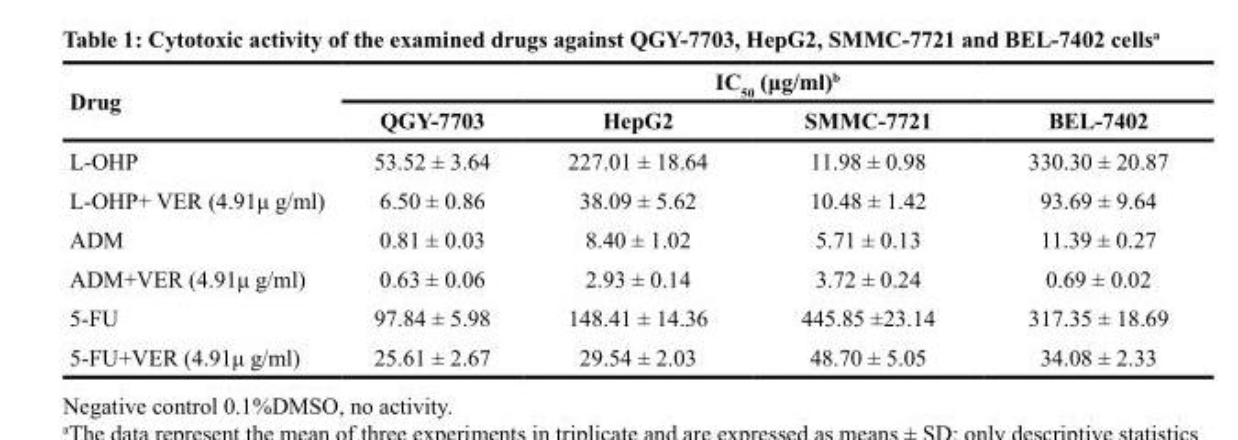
<table><thead><tr><td rowspan="2">Drug</td><td colspan="4">IC<sub>50</sub> (μg/ml)<sup>b</sup></td></tr><tr><td>QGY-7703</td><td>HepG2</td><td>SMMC-7721</td><td>BEL-7402</td></tr></thead><tbody><tr><td>L-OHP</td><td>53.52 ± 3.64</td><td>227.01 ± 18.64</td><td>11.98 ± 0.98</td><td>330.30 ± 20.87</td></tr><tr><td>L-OHP+ VER (4.91μ g/ml)</td><td>6.50 ± 0.86</td><td>38.09 ± 5.62</td><td>10.48 ± 1.42</td><td>93.69 ± 9.64</td></tr><tr><td>ADM</td><td>0.81 ± 0.03</td><td>8.40 ± 1.02</td><td>5.71 ± 0.13</td><td>11.39 ± 0.27</td></tr><tr><td>ADM+VER (4.91μ g/ml)</td><td>0.63 ± 0.06</td><td>2.93 ± 0.14</td><td>3.72 ± 0.24</td><td>0.69 ± 0.02</td></tr><tr><td>5-FU</td><td>97.84 ± 5.98</td><td>148.41 ± 14.36</td><td>445.85 ±23.14</td><td>317.35 ± 18.69</td></tr><tr><td>5-FU+VER (4.91μ g/ml)</td><td>25.61 ± 2.67</td><td>29.54 ± 2.03</td><td>48.70 ± 5.05</td><td>34.08 ± 2.33</td></tr></tbody></table>